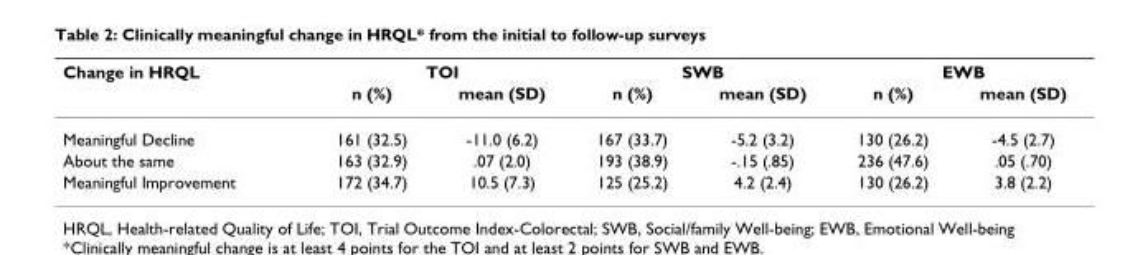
<table><thead><tr><td rowspan="2">Change in HRQL</td><td colspan="2">TOI</td><td colspan="2">SWB</td><td colspan="2">EWB</td></tr><tr><td>n (%)</td><td>mean (SD)</td><td>n (%)</td><td>mean (SD)</td><td>n (%)</td><td>mean (SD)</td></tr></thead><tbody><tr><td>Meaningful Decline</td><td>161 (32.5)</td><td>-11.0 (6.2)</td><td>167 (33.7)</td><td>-5.2 (3.2)</td><td>130 (26.2)</td><td>-4.5 (2.7)</td></tr><tr><td>About the same</td><td>163 (32.9)</td><td>.07 (2.0)</td><td>193 (38.9)</td><td>-.15 (.85)</td><td>236 (47.6)</td><td>.05 (.70)</td></tr><tr><td>Meaningful Improvement</td><td>172 (34.7)</td><td>10.5 (7.3)</td><td>125 (25.2)</td><td>4.2 (2.4)</td><td>130 (26.2)</td><td>3.8 (2.2)</td></tr></tbody></table>